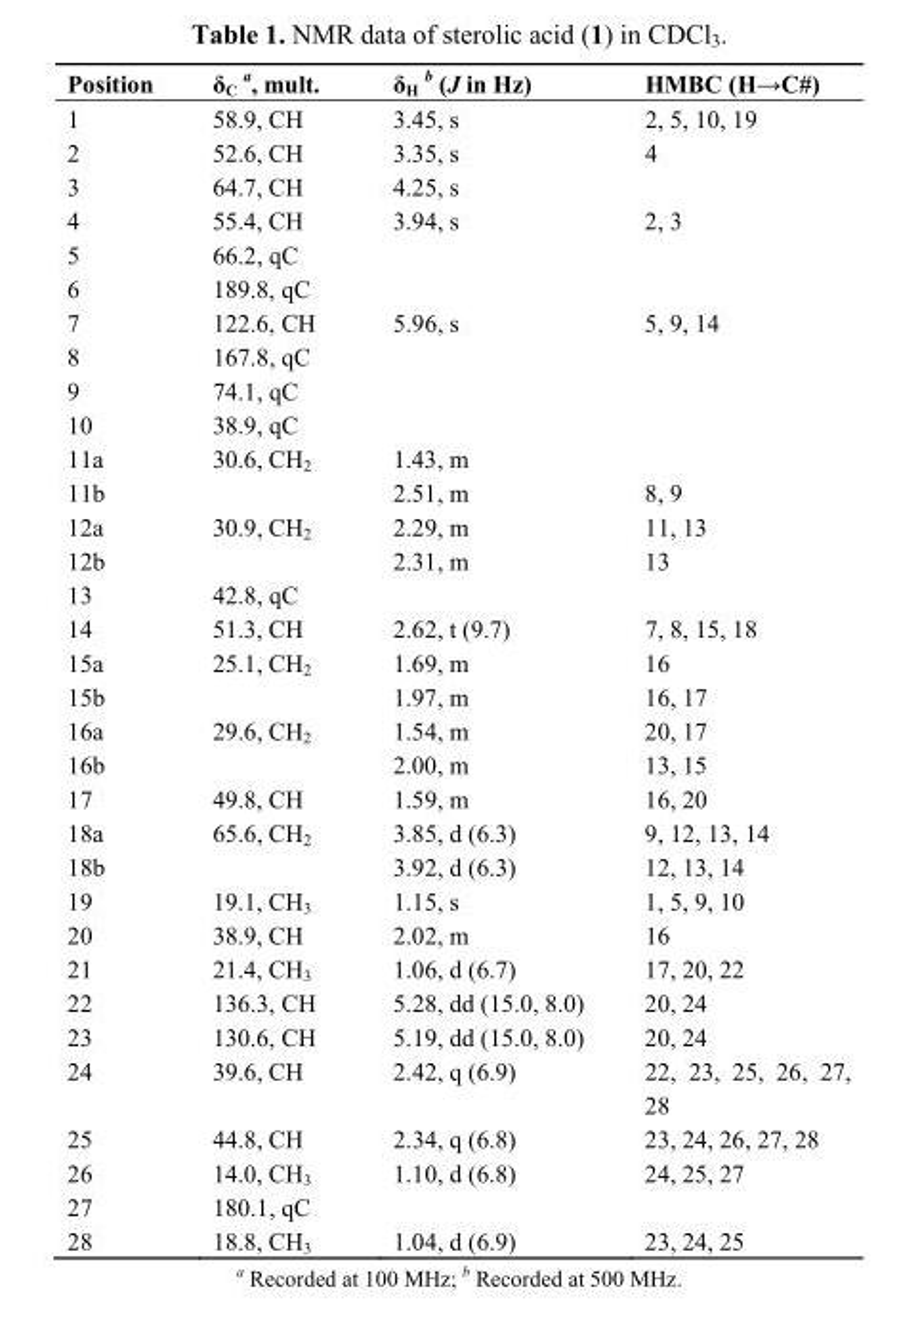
<table><thead><tr><td>Position</td><td>δ<sub>C</sub> <sup>a</sup>, mult.</td><td>δ<sub>H</sub> <sup>b</sup> (J in Hz)</td><td>HMBC (H→C#)</td></tr></thead><tbody><tr><td>1</td><td>58.9, CH</td><td>3.45, s</td><td>2, 5, 10, 19</td></tr><tr><td>2</td><td>52.6, CH</td><td>3.35, s</td><td>4</td></tr><tr><td>3</td><td>64.7, CH</td><td>4.25, s</td><td></td></tr><tr><td>4</td><td>55.4, CH</td><td>3.94, s</td><td>2, 3</td></tr><tr><td>5</td><td>66.2, qC</td><td></td><td></td></tr><tr><td>6</td><td>189.8, qC</td><td></td><td></td></tr><tr><td>7</td><td>122.6, CH</td><td>5.96, s</td><td>5, 9, 14</td></tr><tr><td>8</td><td>167.8, qC</td><td></td><td></td></tr><tr><td>9</td><td>74.1, qC</td><td></td><td></td></tr><tr><td>10</td><td>38.9, qC</td><td></td><td></td></tr><tr><td>11a</td><td>30.6, CH<sub>2</sub></td><td>1.43, m</td><td></td></tr><tr><td>11b</td><td></td><td>2.51, m</td><td>8, 9</td></tr><tr><td>12a</td><td>30.9, CH<sub>2</sub></td><td>2.29, m</td><td>11, 13</td></tr><tr><td>12b</td><td></td><td>2.31, m</td><td>13</td></tr><tr><td>13</td><td>42.8, qC</td><td></td><td></td></tr><tr><td>14</td><td>51.3, CH</td><td>2.62, t (9.7)</td><td>7, 8, 15, 18</td></tr><tr><td>15a</td><td>25.1, CH<sub>2</sub></td><td>1.69, m</td><td>16</td></tr><tr><td>15b</td><td></td><td>1.97, m</td><td>16, 17</td></tr><tr><td>16a</td><td>29.6, CH<sub>2</sub></td><td>1.54, m</td><td>20, 17</td></tr><tr><td>16b</td><td></td><td>2.00, m</td><td>13, 15</td></tr><tr><td>17</td><td>49.8, CH</td><td>1.59, m</td><td>16, 20</td></tr><tr><td>18a</td><td>65.6, CH<sub>2</sub></td><td>3.85, d (6.3)</td><td>9, 12, 13, 14</td></tr><tr><td>18b</td><td></td><td>3.92, d (6.3)</td><td>12, 13, 14</td></tr><tr><td>19</td><td>19.1, CH<sub>3</sub></td><td>1.15, s</td><td>1, 5, 9, 10</td></tr><tr><td>20</td><td>38.9, CH</td><td>2.02, m</td><td>16</td></tr><tr><td>21</td><td>21.4, CH<sub>3</sub></td><td>1.06, d (6.7)</td><td>17, 20, 22</td></tr><tr><td>22</td><td>136.3, CH</td><td>5.28, dd (15.0, 8.0)</td><td>20, 24</td></tr><tr><td>23</td><td>130.6, CH</td><td>5.19, dd (15.0, 8.0)</td><td>20, 24</td></tr><tr><td>24</td><td>39.6, CH</td><td>2.42, q (6.9)</td><td>22, 23, 25, 26, 27, 28</td></tr><tr><td>25</td><td>44.8, CH</td><td>2.34, q (6.8)</td><td>23, 24, 26, 27, 28</td></tr><tr><td>26</td><td>14.0, CH<sub>3</sub></td><td>1.10, d (6.8)</td><td>24, 25, 27</td></tr><tr><td>27</td><td>180.1, qC</td><td></td><td></td></tr><tr><td>28</td><td>18.8, CH<sub>3</sub></td><td>1.04, d (6.9)</td><td>23, 24, 25</td></tr></tbody></table>